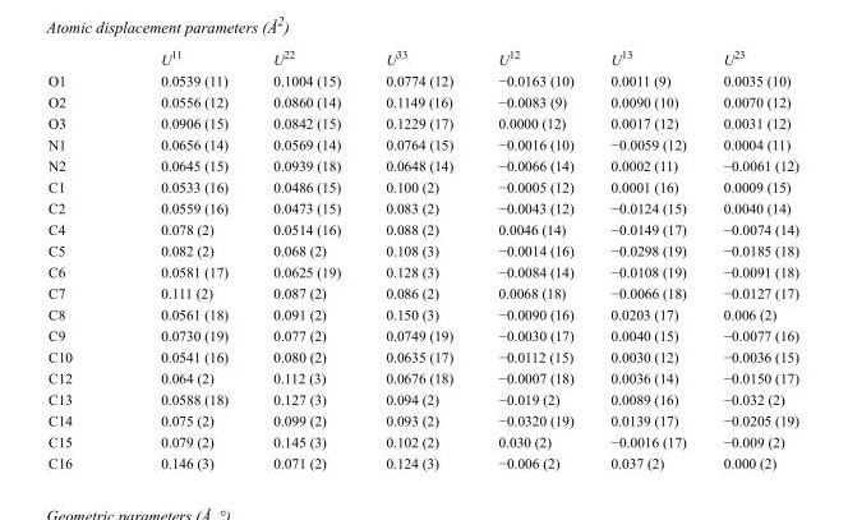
<table><thead><tr><td></td><td>U<sup>11</sup></td><td>U<sup>22</sup></td><td>U<sup>33</sup></td><td>U<sup>12</sup></td><td>U<sup>13</sup></td><td>U<sup>23</sup></td></tr></thead><tbody><tr><td>O1</td><td>0.0539 (11)</td><td>0.1004 (15)</td><td>0.0774 (12)</td><td>−0.0163 (10)</td><td>0.0011 (9)</td><td>0.0035 (10)</td></tr><tr><td>O2</td><td>0.0556 (12)</td><td>0.0860 (14)</td><td>0.1149 (16)</td><td>−0.0083 (9)</td><td>0.0090 (10)</td><td>0.0070 (12)</td></tr><tr><td>O3</td><td>0.0906 (15)</td><td>0.0842 (15)</td><td>0.1229 (17)</td><td>0.0000 (12)</td><td>0.0017 (12)</td><td>0.0031 (12)</td></tr><tr><td>N1</td><td>0.0656 (14)</td><td>0.0569 (14)</td><td>0.0764 (15)</td><td>−0.0016 (10)</td><td>−0.0059 (12)</td><td>0.0004 (11)</td></tr><tr><td>N2</td><td>0.0645 (15)</td><td>0.0939 (18)</td><td>0.0648 (14)</td><td>−0.0066 (14)</td><td>0.0002 (11)</td><td>−0.0061 (12)</td></tr><tr><td>C1</td><td>0.0533 (16)</td><td>0.0486 (15)</td><td>0.100 (2)</td><td>−0.0005 (12)</td><td>0.0001 (16)</td><td>0.0009 (15)</td></tr><tr><td>C2</td><td>0.0559 (16)</td><td>0.0473 (15)</td><td>0.083 (2)</td><td>−0.0043 (12)</td><td>−0.0124 (15)</td><td>0.0040 (14)</td></tr><tr><td>C4</td><td>0.078 (2)</td><td>0.0514 (16)</td><td>0.088 (2)</td><td>0.0046 (14)</td><td>−0.0149 (17)</td><td>−0.0074 (14)</td></tr><tr><td>C5</td><td>0.082 (2)</td><td>0.068 (2)</td><td>0.108 (3)</td><td>−0.0014 (16)</td><td>−0.0298 (19)</td><td>−0.0185 (18)</td></tr><tr><td>C6</td><td>0.0581 (17)</td><td>0.0625 (19)</td><td>0.128 (3)</td><td>−0.0084 (14)</td><td>−0.0108 (19)</td><td>−0.0091 (18)</td></tr><tr><td>C7</td><td>0.111 (2)</td><td>0.087 (2)</td><td>0.086 (2)</td><td>0.0068 (18)</td><td>−0.0066 (18)</td><td>−0.0127 (17)</td></tr><tr><td>C8</td><td>0.0561 (18)</td><td>0.091 (2)</td><td>0.150 (3)</td><td>−0.0090 (16)</td><td>0.0203 (17)</td><td>0.006 (2)</td></tr><tr><td>C9</td><td>0.0730 (19)</td><td>0.077 (2)</td><td>0.0749 (19)</td><td>−0.0030 (17)</td><td>0.0040 (15)</td><td>−0.0077 (16)</td></tr><tr><td>C10</td><td>0.0541 (16)</td><td>0.080 (2)</td><td>0.0635 (17)</td><td>−0.0112 (15)</td><td>0.0030 (12)</td><td>−0.0036 (15)</td></tr><tr><td>C12</td><td>0.064 (2)</td><td>0.112 (3)</td><td>0.0676 (18)</td><td>−0.0007 (18)</td><td>0.0036 (14)</td><td>−0.0150 (17)</td></tr><tr><td>C13</td><td>0.0588 (18)</td><td>0.127 (3)</td><td>0.094 (2)</td><td>−0.019 (2)</td><td>0.0089 (16)</td><td>−0.032 (2)</td></tr><tr><td>C14</td><td>0.075 (2)</td><td>0.099 (2)</td><td>0.093 (2)</td><td>−0.0320 (19)</td><td>0.0139 (17)</td><td>−0.0205 (19)</td></tr><tr><td>C15</td><td>0.079 (2)</td><td>0.145 (3)</td><td>0.102 (2)</td><td>0.030 (2)</td><td>−0.0016 (17)</td><td>−0.009 (2)</td></tr><tr><td>C16</td><td>0.146 (3)</td><td>0.071 (2)</td><td>0.124 (3)</td><td>−0.006 (2)</td><td>0.037 (2)</td><td>0.000 (2)</td></tr></tbody></table>